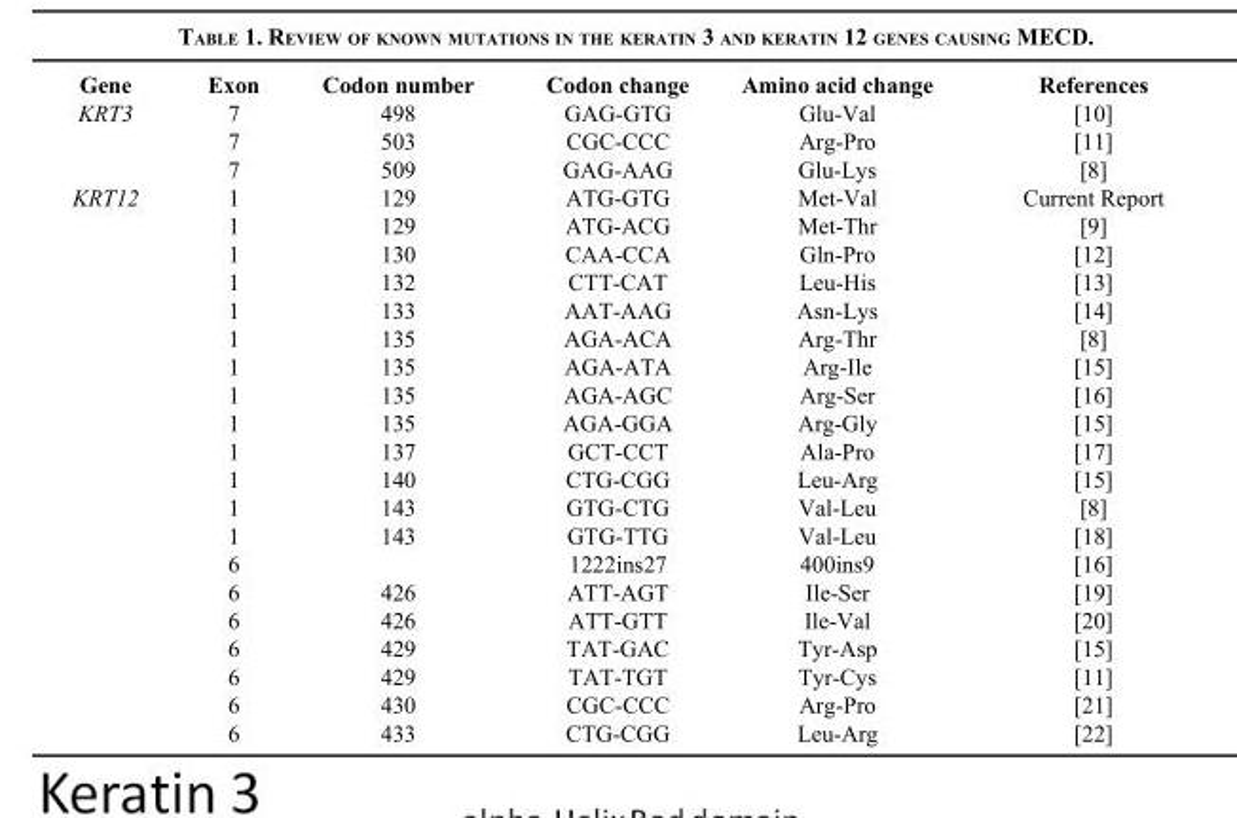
<table><thead><tr><td>Gene</td><td>Exon</td><td>Codon number</td><td>Codon change</td><td>Amino acid change</td><td>References</td></tr></thead><tbody><tr><td rowspan="3">KRT3</td><td>7</td><td>498</td><td>GAG-GTG</td><td>Glu-Val</td><td>[10]</td></tr><tr><td>7</td><td>503</td><td>CGC-CCC</td><td>Arg-Pro</td><td>[11]</td></tr><tr><td>7</td><td>509</td><td>GAG-AAG</td><td>Glu-Lys</td><td>[8]</td></tr><tr><td rowspan="20">KRT12</td><td>1</td><td>129</td><td>ATG-GTG</td><td>Met-Val</td><td>Current Report</td></tr><tr><td>1</td><td>129</td><td>ATG-ACG</td><td>Met-Thr</td><td>[9]</td></tr><tr><td>1</td><td>130</td><td>CAA-CCA</td><td>Gln-Pro</td><td>[12]</td></tr><tr><td>1</td><td>132</td><td>CTT-CAT</td><td>Leu-His</td><td>[13]</td></tr><tr><td>1</td><td>133</td><td>AAT-AAG</td><td>Asn-Lys</td><td>[14]</td></tr><tr><td>1</td><td>135</td><td>AGA-ACA</td><td>Arg-Thr</td><td>[8]</td></tr><tr><td>1</td><td>135</td><td>AGA-ATA</td><td>Arg-Ile</td><td>[15]</td></tr><tr><td>1</td><td>135</td><td>AGA-AGC</td><td>Arg-Ser</td><td>[16]</td></tr><tr><td>1</td><td>135</td><td>AGA-GGA</td><td>Arg-Gly</td><td>[15]</td></tr><tr><td>1</td><td>137</td><td>GCT-CCT</td><td>Ala-Pro</td><td>[17]</td></tr><tr><td>1</td><td>140</td><td>CTG-CGG</td><td>Leu-Arg</td><td>[15]</td></tr><tr><td>1</td><td>143</td><td>GTG-CTG</td><td>Val-Leu</td><td>[8]</td></tr><tr><td>1</td><td>143</td><td>GTG-TTG</td><td>Val-Leu</td><td>[18]</td></tr><tr><td>6</td><td></td><td>1222ins27</td><td>400ins9</td><td>[16]</td></tr><tr><td>6</td><td>426</td><td>ATT-AGT</td><td>Ile-Ser</td><td>[19]</td></tr><tr><td>6</td><td>426</td><td>ATT-GTT</td><td>Ile-Val</td><td>[20]</td></tr><tr><td>6</td><td>429</td><td>TAT-GAC</td><td>Tyr-Asp</td><td>[15]</td></tr><tr><td>6</td><td>429</td><td>TAT-TGT</td><td>Tyr-Cys</td><td>[11]</td></tr><tr><td>6</td><td>430</td><td>CGC-CCC</td><td>Arg-Pro</td><td>[21]</td></tr><tr><td>6</td><td>433</td><td>CTG-CGG</td><td>Leu-Arg</td><td>[22]</td></tr></tbody></table>